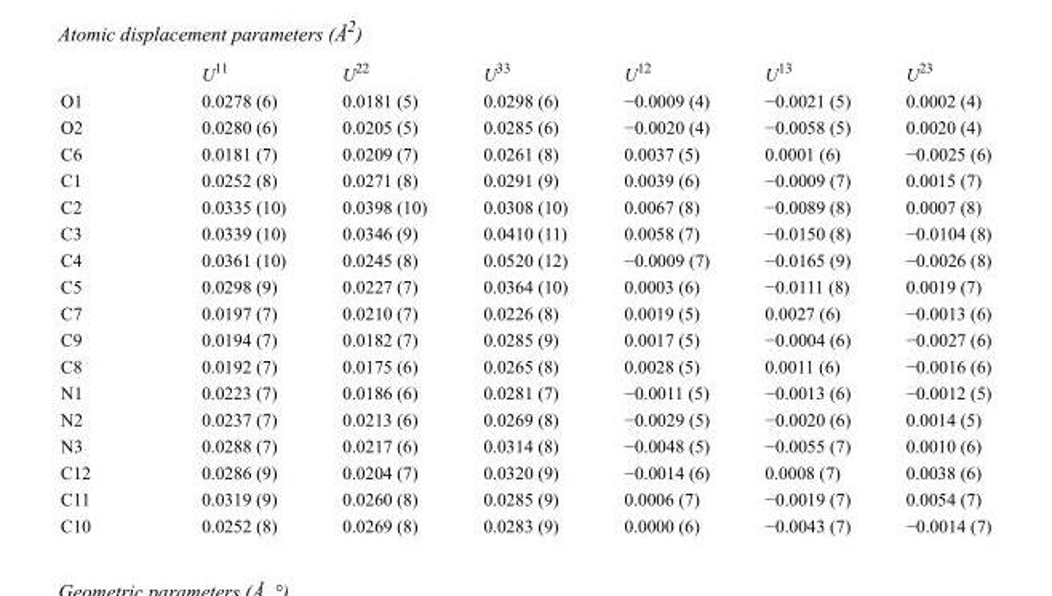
<table><thead><tr><td></td><td>U<sup>11</sup></td><td>U<sup>22</sup></td><td>U<sup>33</sup></td><td>U<sup>12</sup></td><td>U<sup>13</sup></td><td>U<sup>23</sup></td></tr></thead><tbody><tr><td>O1</td><td>0.0278 (6)</td><td>0.0181 (5)</td><td>0.0298 (6)</td><td>−0.0009 (4)</td><td>−0.0021 (5)</td><td>0.0002 (4)</td></tr><tr><td>O2</td><td>0.0280 (6)</td><td>0.0205 (5)</td><td>0.0285 (6)</td><td>−0.0020 (4)</td><td>−0.0058 (5)</td><td>0.0020 (4)</td></tr><tr><td>C6</td><td>0.0181 (7)</td><td>0.0209 (7)</td><td>0.0261 (8)</td><td>0.0037 (5)</td><td>0.0001 (6)</td><td>−0.0025 (6)</td></tr><tr><td>C1</td><td>0.0252 (8)</td><td>0.0271 (8)</td><td>0.0291 (9)</td><td>0.0039 (6)</td><td>−0.0009 (7)</td><td>0.0015 (7)</td></tr><tr><td>C2</td><td>0.0335 (10)</td><td>0.0398 (10)</td><td>0.0308 (10)</td><td>0.0067 (8)</td><td>−0.0089 (8)</td><td>0.0007 (8)</td></tr><tr><td>C3</td><td>0.0339 (10)</td><td>0.0346 (9)</td><td>0.0410 (11)</td><td>0.0058 (7)</td><td>−0.0150 (8)</td><td>−0.0104 (8)</td></tr><tr><td>C4</td><td>0.0361 (10)</td><td>0.0245 (8)</td><td>0.0520 (12)</td><td>−0.0009 (7)</td><td>−0.0165 (9)</td><td>−0.0026 (8)</td></tr><tr><td>C5</td><td>0.0298 (9)</td><td>0.0227 (7)</td><td>0.0364 (10)</td><td>0.0003 (6)</td><td>−0.0111 (8)</td><td>0.0019 (7)</td></tr><tr><td>C7</td><td>0.0197 (7)</td><td>0.0210 (7)</td><td>0.0226 (8)</td><td>0.0019 (5)</td><td>0.0027 (6)</td><td>−0.0013 (6)</td></tr><tr><td>C9</td><td>0.0194 (7)</td><td>0.0182 (7)</td><td>0.0285 (9)</td><td>0.0017 (5)</td><td>−0.0004 (6)</td><td>−0.0027 (6)</td></tr><tr><td>C8</td><td>0.0192 (7)</td><td>0.0175 (6)</td><td>0.0265 (8)</td><td>0.0028 (5)</td><td>0.0011 (6)</td><td>−0.0016 (6)</td></tr><tr><td>N1</td><td>0.0223 (7)</td><td>0.0186 (6)</td><td>0.0281 (7)</td><td>−0.0011 (5)</td><td>−0.0013 (6)</td><td>−0.0012 (5)</td></tr><tr><td>N2</td><td>0.0237 (7)</td><td>0.0213 (6)</td><td>0.0269 (8)</td><td>−0.0029 (5)</td><td>−0.0020 (6)</td><td>0.0014 (5)</td></tr><tr><td>N3</td><td>0.0288 (7)</td><td>0.0217 (6)</td><td>0.0314 (8)</td><td>−0.0048 (5)</td><td>−0.0055 (7)</td><td>0.0010 (6)</td></tr><tr><td>C12</td><td>0.0286 (9)</td><td>0.0204 (7)</td><td>0.0320 (9)</td><td>−0.0014 (6)</td><td>0.0008 (7)</td><td>0.0038 (6)</td></tr><tr><td>C11</td><td>0.0319 (9)</td><td>0.0260 (8)</td><td>0.0285 (9)</td><td>0.0006 (7)</td><td>−0.0019 (7)</td><td>0.0054 (7)</td></tr><tr><td>C10</td><td>0.0252 (8)</td><td>0.0269 (8)</td><td>0.0283 (9)</td><td>0.0000 (6)</td><td>−0.0043 (7)</td><td>−0.0014 (7)</td></tr></tbody></table>